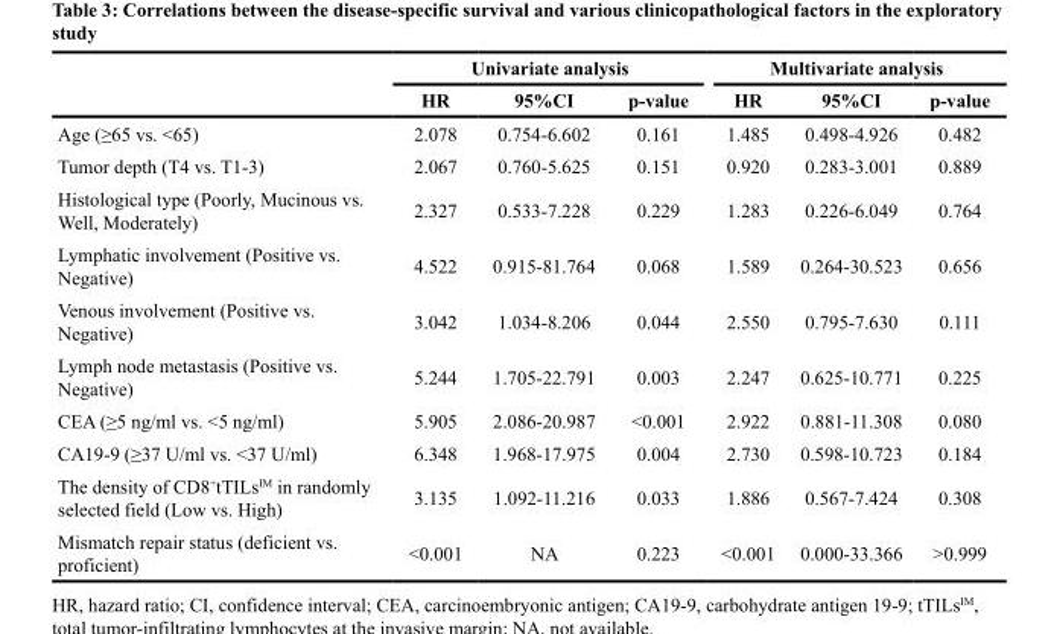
<table><thead><tr><td rowspan="2"></td><td colspan="3">Univariate analysis</td><td colspan="3">Multivariate analysis</td></tr><tr><td>HR</td><td>95%CI</td><td>p-value</td><td>HR</td><td>95%CI</td><td>p-value</td></tr></thead><tbody><tr><td>Age (≥65 vs. &lt;65)</td><td>2.078</td><td>0.754-6.602</td><td>0.161</td><td>1.485</td><td>0.498-4.926</td><td>0.482</td></tr><tr><td>Tumor depth (T4 vs. T1-3)</td><td>2.067</td><td>0.760-5.625</td><td>0.151</td><td>0.920</td><td>0.283-3.001</td><td>0.889</td></tr><tr><td>Histological type (Poorly, Mucinous vs. Well, Moderately)</td><td>2.327</td><td>0.533-7.228</td><td>0.229</td><td>1.283</td><td>0.226-6.049</td><td>0.764</td></tr><tr><td>Lymphatic involvement (Positive vs. Negative)</td><td>4.522</td><td>0.915-81.764</td><td>0.068</td><td>1.589</td><td>0.264-30.523</td><td>0.656</td></tr><tr><td>Venous involvement (Positive vs. Negative)</td><td>3.042</td><td>1.034-8.206</td><td>0.044</td><td>2.550</td><td>0.795-7.630</td><td>0.111</td></tr><tr><td>Lymph node metastasis (Positive vs. Negative)</td><td>5.244</td><td>1.705-22.791</td><td>0.003</td><td>2.247</td><td>0.625-10.771</td><td>0.225</td></tr><tr><td>CEA (≥5 ng/ml vs. &lt;5 ng/ml)</td><td>5.905</td><td>2.086-20.987</td><td>&lt;0.001</td><td>2.922</td><td>0.881-11.308</td><td>0.080</td></tr><tr><td>CA19-9 (≥37 U/ml vs. &lt;37 U/ml)</td><td>6.348</td><td>1.968-17.975</td><td>0.004</td><td>2.730</td><td>0.598-10.723</td><td>0.184</td></tr><tr><td>The density of CD8<sup>+</sup>tTILs<sup>IM</sup> in randomly selected field (Low vs. High)</td><td>3.135</td><td>1.092-11.216</td><td>0.033</td><td>1.886</td><td>0.567-7.424</td><td>0.308</td></tr><tr><td>Mismatch repair status (deficient vs. proficient)</td><td>&lt;0.001</td><td>NA</td><td>0.223</td><td>&lt;0.001</td><td>0.000-33.366</td><td>&gt;0.999</td></tr></tbody></table>